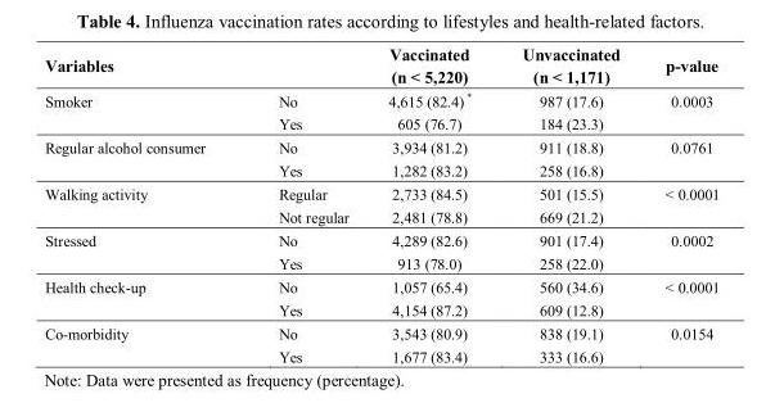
<table><thead><tr><td>Variables</td><td></td><td>Vaccinated (n &lt; 5,220)</td><td>Unvaccinated (n &lt; 1,171)</td><td>p-value</td></tr></thead><tbody><tr><td rowspan="2">Smoker</td><td>No</td><td>4,615 (82.4) *</td><td>987 (17.6)</td><td rowspan="2">0.0003</td></tr><tr><td>Yes</td><td>605 (76.7)</td><td>184 (23.3)</td></tr><tr><td rowspan="2">Regular alcohol consumer</td><td>No</td><td>3,934 (81.2)</td><td>911 (18.8)</td><td rowspan="2">0.0761</td></tr><tr><td>Yes</td><td>1,282 (83.2)</td><td>258 (16.8)</td></tr><tr><td rowspan="2">Walking activity</td><td>Regular</td><td>2,733 (84.5)</td><td>501 (15.5)</td><td rowspan="2">&lt; 0.0001</td></tr><tr><td>Not regular</td><td>2,481 (78.8)</td><td>669 (21.2)</td></tr><tr><td rowspan="2">Stressed</td><td>No</td><td>4,289 (82.6)</td><td>901 (17.4)</td><td rowspan="2">0.0002</td></tr><tr><td>Yes</td><td>913 (78.0)</td><td>258 (22.0)</td></tr><tr><td rowspan="2">Health check-up</td><td>No</td><td>1,057 (65.4)</td><td>560 (34.6)</td><td rowspan="2">&lt; 0.0001</td></tr><tr><td>Yes</td><td>4,154 (87.2)</td><td>609 (12.8)</td></tr><tr><td rowspan="2">Co-morbidity</td><td>No</td><td>3,543 (80.9)</td><td>838 (19.1)</td><td rowspan="2">0.0154</td></tr><tr><td>Yes</td><td>1,677 (83.4)</td><td>333 (16.6)</td></tr></tbody></table>